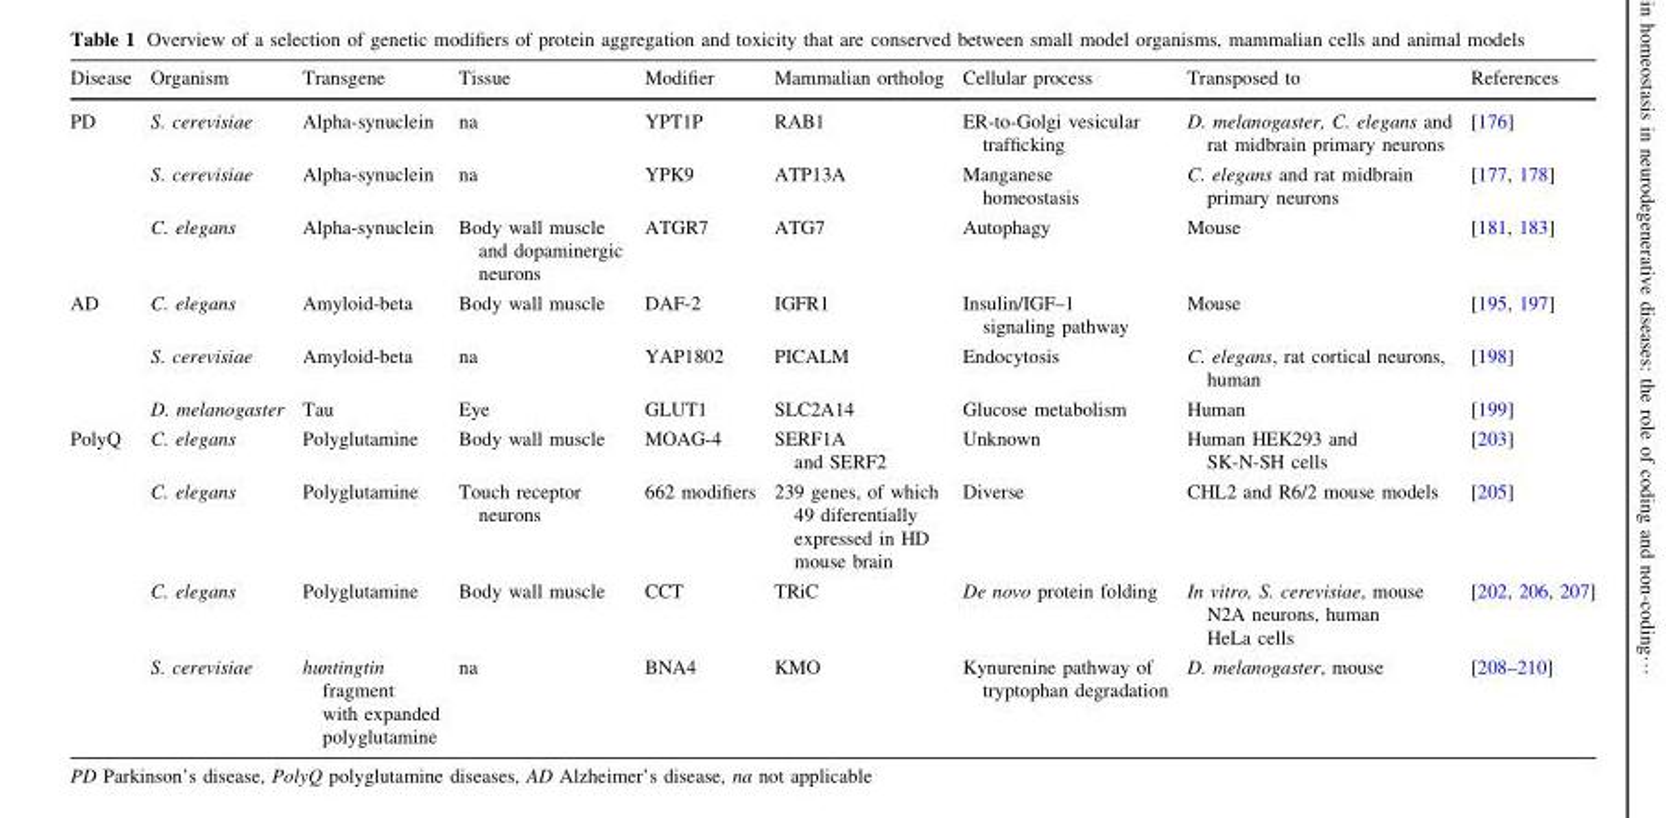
<table><thead><tr><td>Disease</td><td>Organism</td><td>Transgene</td><td>Tissue</td><td>Modifier</td><td>Mammalian ortholog</td><td>Cellular process</td><td>Transposed to</td><td>References</td></tr></thead><tbody><tr><td rowspan="3">PD</td><td>S. cerevisiae</td><td>Alpha-synuclein</td><td>na</td><td>YPT1P</td><td>RAB1</td><td>ER-to-Golgi vesicular trafficking</td><td>D. melanogaster, C. elegans and rat midbrain primary neurons</td><td>[176]</td></tr><tr><td>S. cerevisiae</td><td>Alpha-synuclein</td><td>na</td><td>YPK9</td><td>ATP13A</td><td>Manganese homeostasis</td><td>C. elegans and rat midbrain primary neurons</td><td>[177, 178]</td></tr><tr><td>C. elegans</td><td>Alpha-synuclein</td><td>Body wall muscle and dopaminergic neurons</td><td>ATGR7</td><td>ATG7</td><td>Autophagy</td><td>Mouse</td><td>[181, 183]</td></tr><tr><td rowspan="3">AD</td><td>C. elegans</td><td>Amyloid-beta</td><td>Body wall muscle</td><td>DAF-2</td><td>IGFR1</td><td>Insulin/IGF–1 signaling pathway</td><td>Mouse</td><td>[195, 197]</td></tr><tr><td>S. cerevisiae</td><td>Amyloid-beta</td><td>na</td><td>YAP1802</td><td>PICALM</td><td>Endocytosis</td><td>C. elegans, rat cortical neurons, human</td><td>[198]</td></tr><tr><td>D. melanogaster</td><td>Tau</td><td>Eye</td><td>GLUT1</td><td>SLC2A14</td><td>Glucose metabolism</td><td>Human</td><td>[199]</td></tr><tr><td rowspan="4">PolyQ</td><td>C. elegans</td><td>Polyglutamine</td><td>Body wall muscle</td><td>MOAG-4</td><td>SERF1A and SERF2</td><td>Unknown</td><td>Human HEK293 and SK-N-SH cells</td><td>[203]</td></tr><tr><td>C. elegans</td><td>Polyglutamine</td><td>Touch receptor neurons</td><td>662 modifiers</td><td>239 genes, of which 49 diferentially expressed in HD mouse brain</td><td>Diverse</td><td>CHL2 and R6/2 mouse models</td><td>[205]</td></tr><tr><td>C. elegans</td><td>Polyglutamine</td><td>Body wall muscle</td><td>CCT</td><td>TRiC</td><td>De novo protein folding</td><td>In vitro, S. cerevisiae, mouse N2A neurons, human HeLa cells</td><td>[202, 206, 207]</td></tr><tr><td>S. cerevisiae</td><td>huntingtin fragment with expanded polyglutamine</td><td>na</td><td>BNA4</td><td>KMO</td><td>Kynurenine pathway of tryptophan degradation</td><td>D. melanogaster, mouse</td><td>[208–210]</td></tr></tbody></table>